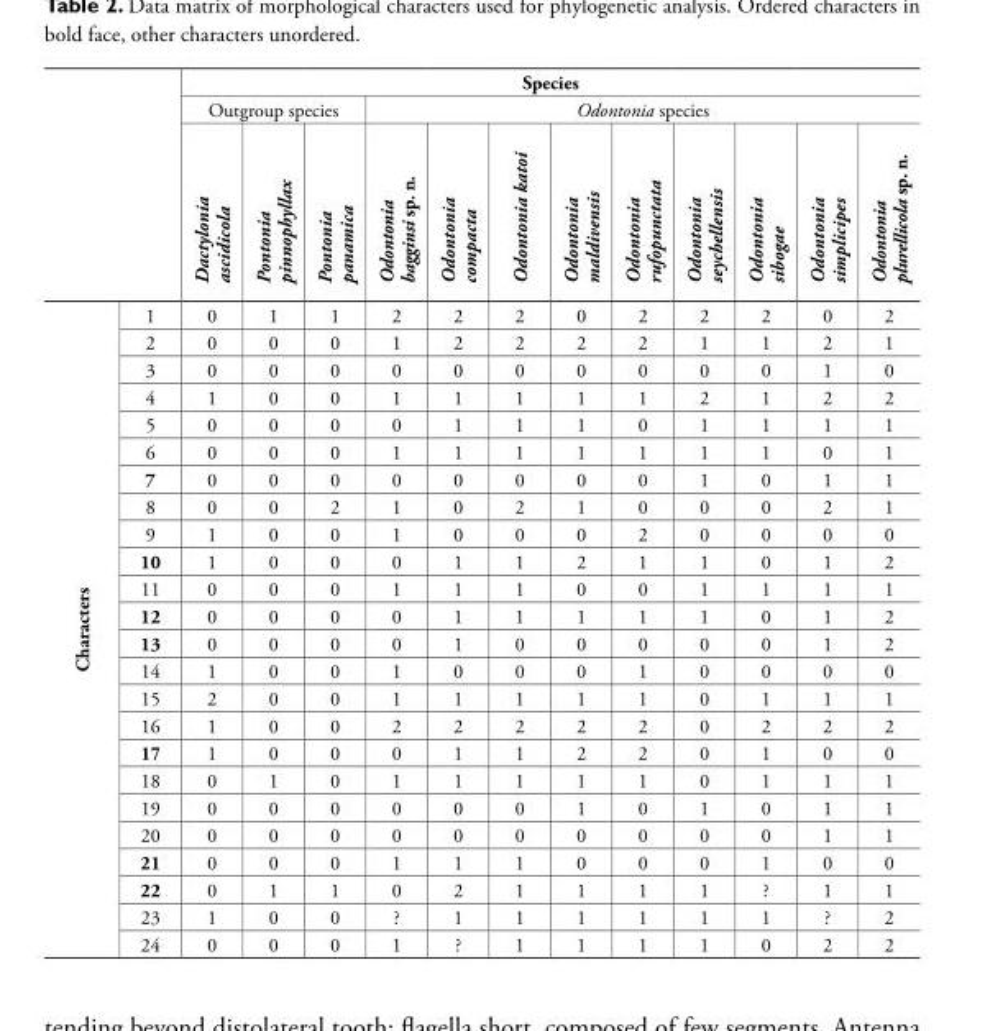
<table><thead><tr><td rowspan="3"></td><td rowspan="3"></td><td colspan="12">Species</td></tr><tr><td colspan="3">Outgroup species</td><td colspan="9">Odontonia species</td></tr><tr><td>Dactylonia ascidicola</td><td>Pontonia pinnophyllax</td><td>Pontonia panamica</td><td>Odontonia bagginsi sp. n.</td><td>Odontonia compacta</td><td>Odontonia katoi</td><td>Odontonia maldivensis</td><td>Odontonia rufopunctata</td><td>Odontonia seychellensis</td><td>Odontonia sibogae</td><td>Odontonia simplicipes</td><td>Odontonia plurellicola sp. n.</td></tr></thead><tbody><tr><td rowspan="24">Characters</td><td>1</td><td>0</td><td>1</td><td>1</td><td>2</td><td>2</td><td>2</td><td>0</td><td>2</td><td>2</td><td>2</td><td>0</td><td>2</td></tr><tr><td>2</td><td>0</td><td>0</td><td>0</td><td>1</td><td>2</td><td>2</td><td>2</td><td>2</td><td>1</td><td>1</td><td>2</td><td>1</td></tr><tr><td>3</td><td>0</td><td>0</td><td>0</td><td>0</td><td>0</td><td>0</td><td>0</td><td>0</td><td>0</td><td>0</td><td>1</td><td>0</td></tr><tr><td>4</td><td>1</td><td>0</td><td>0</td><td>1</td><td>1</td><td>1</td><td>1</td><td>1</td><td>2</td><td>1</td><td>2</td><td>2</td></tr><tr><td>5</td><td>0</td><td>0</td><td>0</td><td>0</td><td>1</td><td>1</td><td>1</td><td>0</td><td>1</td><td>1</td><td>1</td><td>1</td></tr><tr><td>6</td><td>0</td><td>0</td><td>0</td><td>1</td><td>1</td><td>1</td><td>1</td><td>1</td><td>1</td><td>1</td><td>0</td><td>1</td></tr><tr><td>7</td><td>0</td><td>0</td><td>0</td><td>0</td><td>0</td><td>0</td><td>0</td><td>0</td><td>1</td><td>0</td><td>1</td><td>1</td></tr><tr><td>8</td><td>0</td><td>0</td><td>2</td><td>1</td><td>0</td><td>2</td><td>1</td><td>0</td><td>0</td><td>0</td><td>2</td><td>1</td></tr><tr><td>9</td><td>1</td><td>0</td><td>0</td><td>1</td><td>0</td><td>0</td><td>0</td><td>2</td><td>0</td><td>0</td><td>0</td><td>0</td></tr><tr><td>10</td><td>1</td><td>0</td><td>0</td><td>0</td><td>1</td><td>1</td><td>2</td><td>1</td><td>1</td><td>0</td><td>1</td><td>2</td></tr><tr><td>11</td><td>0</td><td>0</td><td>0</td><td>1</td><td>1</td><td>1</td><td>0</td><td>0</td><td>1</td><td>1</td><td>1</td><td>1</td></tr><tr><td>12</td><td>0</td><td>0</td><td>0</td><td>0</td><td>1</td><td>1</td><td>1</td><td>1</td><td>1</td><td>0</td><td>1</td><td>2</td></tr><tr><td>13</td><td>0</td><td>0</td><td>0</td><td>0</td><td>1</td><td>0</td><td>0</td><td>0</td><td>0</td><td>0</td><td>1</td><td>2</td></tr><tr><td>14</td><td>1</td><td>0</td><td>0</td><td>1</td><td>0</td><td>0</td><td>0</td><td>1</td><td>0</td><td>0</td><td>0</td><td>0</td></tr><tr><td>15</td><td>2</td><td>0</td><td>0</td><td>1</td><td>1</td><td>1</td><td>1</td><td>1</td><td>0</td><td>1</td><td>1</td><td>1</td></tr><tr><td>16</td><td>1</td><td>0</td><td>0</td><td>2</td><td>2</td><td>2</td><td>2</td><td>2</td><td>0</td><td>2</td><td>2</td><td>2</td></tr><tr><td>17</td><td>1</td><td>0</td><td>0</td><td>0</td><td>1</td><td>1</td><td>2</td><td>2</td><td>0</td><td>1</td><td>0</td><td>0</td></tr><tr><td>18</td><td>0</td><td>1</td><td>0</td><td>1</td><td>1</td><td>1</td><td>1</td><td>1</td><td>0</td><td>1</td><td>1</td><td>1</td></tr><tr><td>19</td><td>0</td><td>0</td><td>0</td><td>0</td><td>0</td><td>0</td><td>1</td><td>0</td><td>1</td><td>0</td><td>1</td><td>1</td></tr><tr><td>20</td><td>0</td><td>0</td><td>0</td><td>0</td><td>0</td><td>0</td><td>0</td><td>0</td><td>0</td><td>0</td><td>1</td><td>1</td></tr><tr><td>21</td><td>0</td><td>0</td><td>0</td><td>1</td><td>1</td><td>1</td><td>0</td><td>0</td><td>0</td><td>1</td><td>0</td><td>0</td></tr><tr><td>22</td><td>0</td><td>1</td><td>1</td><td>0</td><td>2</td><td>1</td><td>1</td><td>1</td><td>1</td><td>?</td><td>1</td><td>1</td></tr><tr><td>23</td><td>1</td><td>0</td><td>0</td><td>?</td><td>1</td><td>1</td><td>1</td><td>1</td><td>1</td><td>1</td><td>?</td><td>2</td></tr><tr><td>24</td><td>0</td><td>0</td><td>0</td><td>1</td><td>?</td><td>1</td><td>1</td><td>1</td><td>1</td><td>0</td><td>2</td><td>2</td></tr></tbody></table>